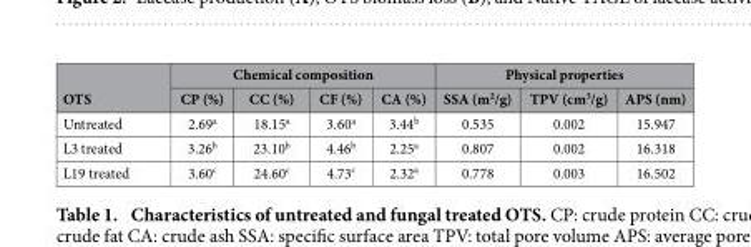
<table><thead><tr><td rowspan="2">OTS</td><td colspan="4">Chemical composition</td><td colspan="3">Physical properties</td></tr><tr><td>CP (%)</td><td>CC (%)</td><td>CF (%)</td><td>CA (%)</td><td>SSA (m<sup>2</sup>/g)</td><td>TPV (cm<sup>3</sup>/g)</td><td>APS (nm)</td></tr></thead><tbody><tr><td>Untreated</td><td>2.69<sup>a</sup></td><td>18.15<sup>a</sup></td><td>3.60<sup>a</sup></td><td>3.44<sup>b</sup></td><td>0.535</td><td>0.002</td><td>15.947</td></tr><tr><td>L3 treated</td><td>3.26<sup>b</sup></td><td>23.10<sup>b</sup></td><td>4.46<sup>b</sup></td><td>2.25<sup>a</sup></td><td>0.807</td><td>0.002</td><td>16.318</td></tr><tr><td>L19 treated</td><td>3.60<sup>c</sup></td><td>24.60<sup>c</sup></td><td>4.73<sup>c</sup></td><td>2.32<sup>a</sup></td><td>0.778</td><td>0.003</td><td>16.502</td></tr></tbody></table>